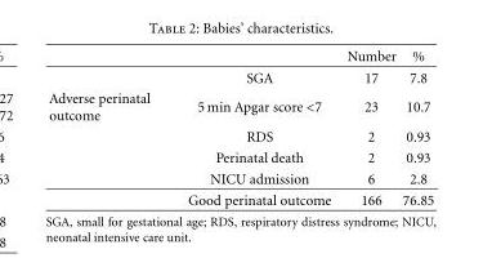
<table><thead><tr><td></td><td></td><td>Number</td><td>%</td></tr></thead><tbody><tr><td></td><td>SGA</td><td>17</td><td>7.8</td></tr><tr><td rowspan="5">Adverse perinatal outcome</td><td>5 min Apgar score &lt;7</td><td>23</td><td>10.7</td></tr><tr><td>RDS</td><td>2</td><td>0.93</td></tr><tr><td>Perinatal death</td><td>2</td><td>0.93</td></tr><tr><td>NICU admission</td><td>6</td><td>2.8</td></tr><tr><td>Good perinatal outcome</td><td>166</td><td>76.85</td></tr></tbody></table>